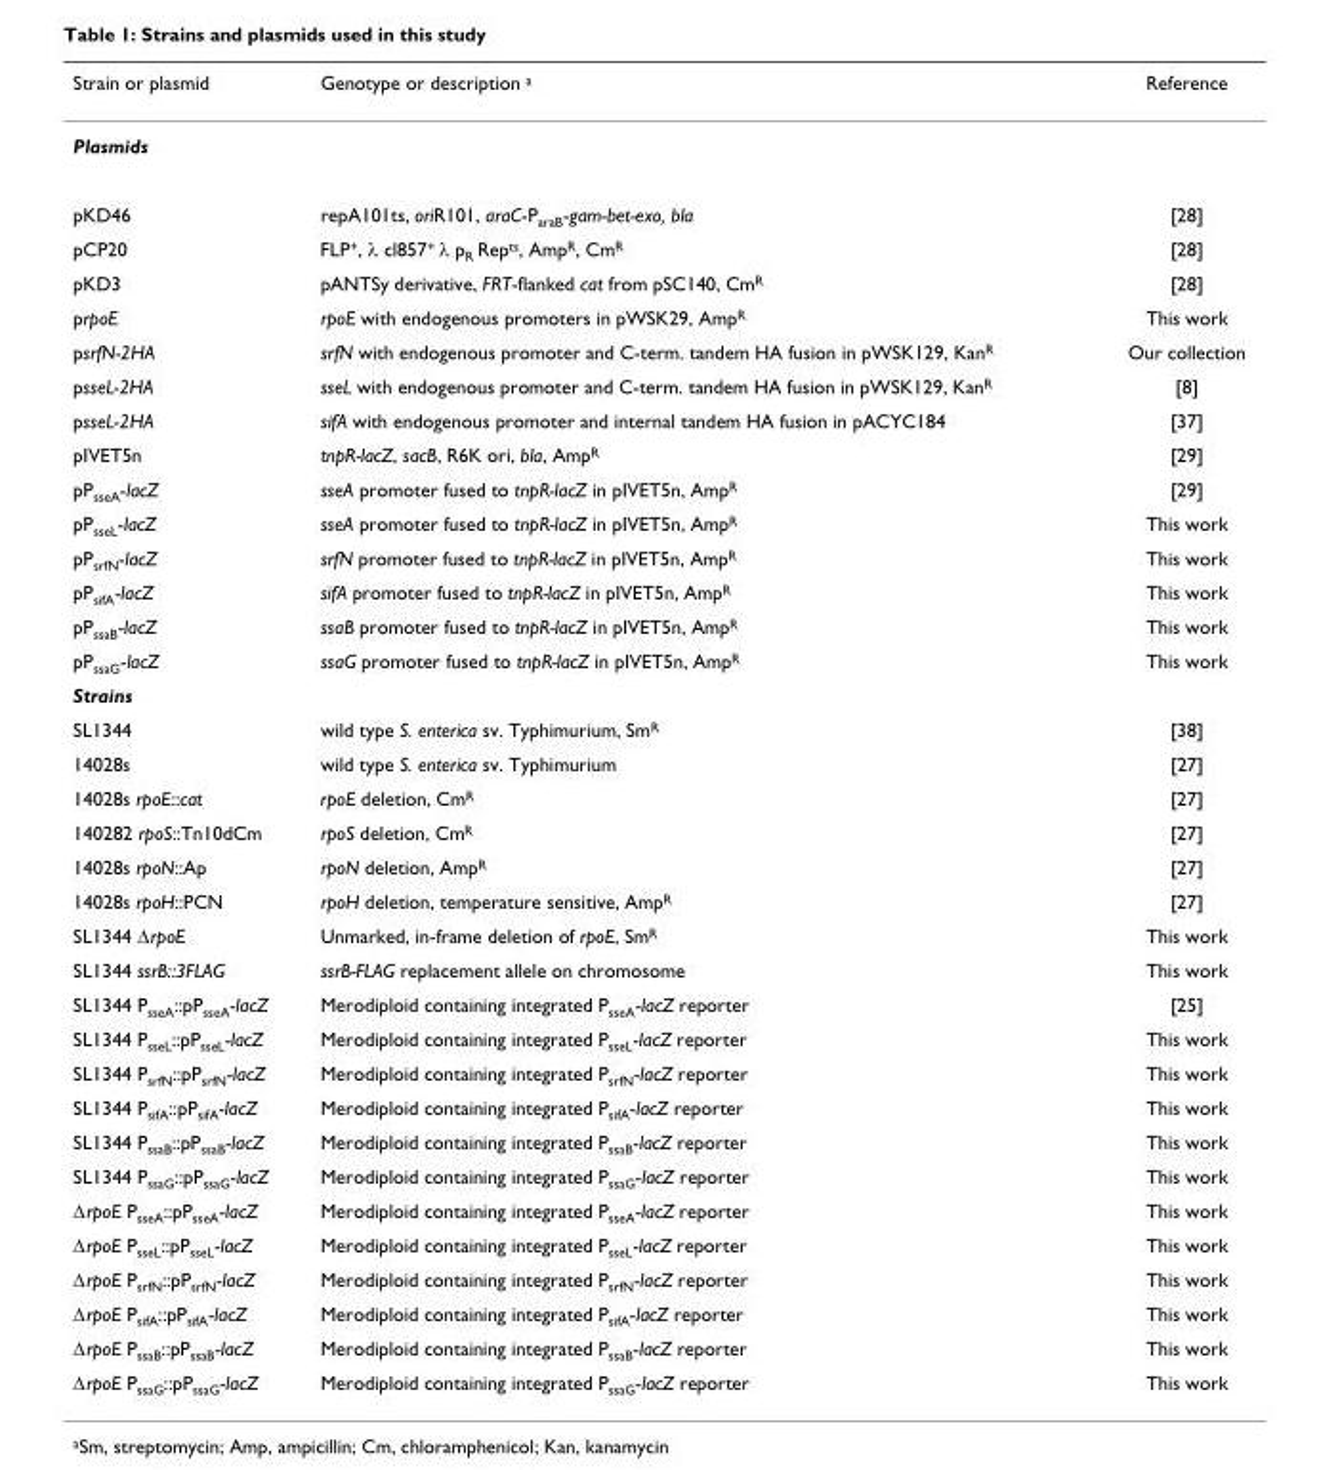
<table><thead><tr><td>Strain or plasmid</td><td>Genotype or description <sup>a</sup></td><td>Reference</td></tr></thead><tbody><tr><td colspan="3">Plasmids</td></tr><tr><td>pKD46</td><td>repA101ts, oriR101, araC-P<sub>araB</sub>-gam-bet-exo, bla</td><td>[28]</td></tr><tr><td>pCP20</td><td>FLP<sup>+</sup>, λ cl857<sup>+</sup> λ p<sub>R</sub> Rep<sup>ts</sup>, Amp<sup>R</sup>, Cm<sup>R</sup></td><td>[28]</td></tr><tr><td>pKD3</td><td>pANTSy derivative, FRT-flanked cat from pSC140, Cm<sup>R</sup></td><td>[28]</td></tr><tr><td>prpoE</td><td>rpoE with endogenous promoters in pWSK29, Amp<sup>R</sup></td><td>This work</td></tr><tr><td>psrfN-2HA</td><td>srfN with endogenous promoter and C-term. tandem HA fusion in pWSK129, Kan<sup>R</sup></td><td>Our collection</td></tr><tr><td>psseL-2HA</td><td>sseL with endogenous promoter and C-term. tandem HA fusion in pWSK129, Kan<sup>R</sup></td><td>[8]</td></tr><tr><td>psseL-2HA</td><td>sifA with endogenous promoter and internal tandem HA fusion in pACYC184</td><td>[37]</td></tr><tr><td>pIVET5n</td><td>tnpR-lacZ, sacB, R6K ori, bla, Amp<sup>R</sup></td><td>[29]</td></tr><tr><td>pP<sub>sseA</sub>-lacZ</td><td>sseA promoter fused to tnpR-lacZ in pIVET5n, Amp<sup>R</sup></td><td>[29]</td></tr><tr><td>pP<sub>sseL</sub>-lacZ</td><td>sseA promoter fused to tnpR-lacZ in pIVET5n, Amp<sup>R</sup></td><td>This work</td></tr><tr><td>pP<sub>srfN</sub>-lacZ</td><td>srfN promoter fused to tnpR-lacZ in pIVET5n, Amp<sup>R</sup></td><td>This work</td></tr><tr><td>pP<sub>sifA</sub>-lacZ</td><td>sifA promoter fused to tnpR-lacZ in pIVET5n, Amp<sup>R</sup></td><td>This work</td></tr><tr><td>pP<sub>ssaB</sub>-lacZ</td><td>ssaB promoter fused to tnpR-lacZ in pIVET5n, Amp<sup>R</sup></td><td>This work</td></tr><tr><td>pP<sub>ssaG</sub>-lacZ</td><td>ssaG promoter fused to tnpR-lacZ in pIVET5n, Amp<sup>R</sup></td><td>This work</td></tr><tr><td colspan="3">Strains</td></tr><tr><td>SL1344</td><td>wild type S. enterica sv. Typhimurium, Sm<sup>R</sup></td><td>[38]</td></tr><tr><td>14028s</td><td>wild type S. enterica sv. Typhimurium</td><td>[27]</td></tr><tr><td>14028s rpoE::cat</td><td>rpoE deletion, Cm<sup>R</sup></td><td>[27]</td></tr><tr><td>140282 rpoS::Tn10dCm</td><td>rpoS deletion, Cm<sup>R</sup></td><td>[27]</td></tr><tr><td>14028s rpoN::Ap</td><td>rpoN deletion, Amp<sup>R</sup></td><td>[27]</td></tr><tr><td>14028s rpoH::PCN</td><td>rpoH deletion, temperature sensitive, Amp<sup>R</sup></td><td>[27]</td></tr><tr><td>SL1344 ΔrpoE</td><td>Unmarked, in-frame deletion of rpoE, Sm<sup>R</sup></td><td>This work</td></tr><tr><td>SL1344 ssrB::3FLAG</td><td>ssrB-FLAG replacement allele on chromosome</td><td>This work</td></tr><tr><td>SL1344 P<sub>sseA</sub>::pP<sub>sseA</sub>-lacZ</td><td>Merodiploid containing integrated P<sub>sseA</sub>-lacZ reporter</td><td>[25]</td></tr><tr><td>SL1344 P<sub>sseL</sub>::pP<sub>sseL</sub>-lacZ</td><td>Merodiploid containing integrated P<sub>sseL</sub>-lacZ reporter</td><td>This work</td></tr><tr><td>SL1344 P<sub>srfN</sub>::pP<sub>srfN</sub>-lacZ</td><td>Merodiploid containing integrated P<sub>srfN</sub>-lacZ reporter</td><td>This work</td></tr><tr><td>SL1344 P<sub>sifA</sub>::pP<sub>sifA</sub>-lacZ</td><td>Merodiploid containing integrated P<sub>sifA</sub>-lacZ reporter</td><td>This work</td></tr><tr><td>SL1344 P<sub>ssaB</sub>::pP<sub>ssaB</sub>-lacZ</td><td>Merodiploid containing integrated P<sub>ssaB</sub>-lacZ reporter</td><td>This work</td></tr><tr><td>SL1344 P<sub>ssaG</sub>::pP<sub>ssaG</sub>-lacZ</td><td>Merodiploid containing integrated P<sub>ssaG</sub>-lacZ reporter</td><td>This work</td></tr><tr><td>ΔrpoE P<sub>sseA</sub>::pP<sub>sseA</sub>-lacZ</td><td>Merodiploid containing integrated P<sub>sseA</sub>-lacZ reporter</td><td>This work</td></tr><tr><td>ΔrpoE P<sub>sseL</sub>::pP<sub>sseL</sub>-lacZ</td><td>Merodiploid containing integrated P<sub>sseL</sub>-lacZ reporter</td><td>This work</td></tr><tr><td>ΔrpoE P<sub>srfN</sub>::pP<sub>srfN</sub>-lacZ</td><td>Merodiploid containing integrated P<sub>srfN</sub>-lacZ reporter</td><td>This work</td></tr><tr><td>ΔrpoE P<sub>sifA</sub>::pP<sub>sifA</sub>-lacZ</td><td>Merodiploid containing integrated P<sub>sifA</sub>-lacZ reporter</td><td>This work</td></tr><tr><td>ΔrpoE P<sub>ssaB</sub>::pP<sub>ssaB</sub>-lacZ</td><td>Merodiploid containing integrated P<sub>ssaB</sub>-lacZ reporter</td><td>This work</td></tr><tr><td>ΔrpoE P<sub>ssaG</sub>::pP<sub>ssaG</sub>-lacZ</td><td>Merodiploid containing integrated P<sub>ssaG</sub>-lacZ reporter</td><td>This work</td></tr></tbody></table>